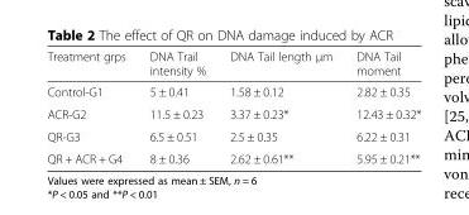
<table><thead><tr><td>Treatment grps</td><td>DNA Trail intensity %</td><td>DNA Tail length μm</td><td>DNA Tail moment</td></tr></thead><tbody><tr><td>Control-G1</td><td>5 ± 0.41</td><td>1.58 ± 0.12</td><td>2.82 ± 0.35</td></tr><tr><td>ACR-G2</td><td>11.5 ± 0.23</td><td>3.37 ± 0.23*</td><td>12.43 ± 0.32*</td></tr><tr><td>QR-G3</td><td>6.5 ± 0.51</td><td>2.5 ± 0.35</td><td>6.22 ± 0.31</td></tr><tr><td>QR + ACR + G4</td><td>8 ± 0.36</td><td>2.62 ± 0.61**</td><td>5.95 ± 0.21**</td></tr></tbody></table>